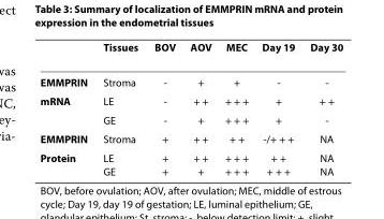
<table><thead><tr><td></td><td>Tissues</td><td>BOV</td><td>AOV</td><td>MEC</td><td>Day 19</td><td>Day 30</td></tr></thead><tbody><tr><td>EMMPRIN</td><td>Stroma</td><td>-</td><td>+</td><td>+</td><td>-</td><td>-</td></tr><tr><td rowspan="2">mRNA</td><td>LE</td><td>-</td><td>+ +</td><td>+ + +</td><td>+</td><td>+ +</td></tr><tr><td>GE</td><td>-</td><td>+</td><td>+ + +</td><td>+</td><td>-</td></tr><tr><td>EMMPRIN</td><td>Stroma</td><td>+</td><td>+ +</td><td>+ +</td><td>-/+ + +</td><td>NA</td></tr><tr><td>Protein</td><td>LE GE</td><td>+ +</td><td>+ + +</td><td>+ + + + + +</td><td>+ + + + +</td><td>NA NA</td></tr></tbody></table>